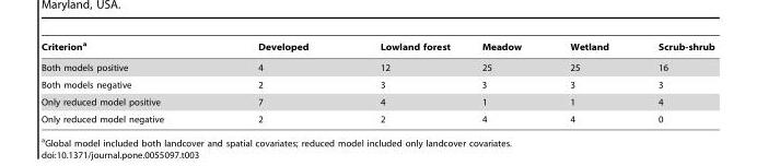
<table><thead><tr><td>Criterion<sup>a</sup></td><td>Developed</td><td>Lowland forest</td><td>Meadow</td><td>Wetland</td><td>Scrub-shrub</td></tr></thead><tbody><tr><td>Both models positive</td><td>4</td><td>12</td><td>25</td><td>25</td><td>16</td></tr><tr><td>Both models negative</td><td>2</td><td>3</td><td>3</td><td>3</td><td>3</td></tr><tr><td>Only reduced model positive</td><td>7</td><td>4</td><td>1</td><td>1</td><td>4</td></tr><tr><td>Only reduced model negative</td><td>2</td><td>2</td><td>4</td><td>4</td><td>0</td></tr></tbody></table>